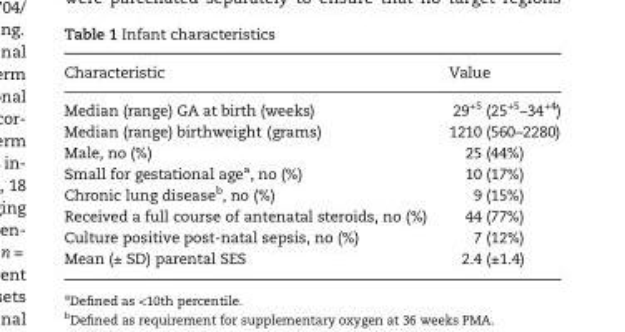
<table><thead><tr><td>Characteristic</td><td>Value</td></tr></thead><tbody><tr><td>Median (range) GA at birth (weeks)</td><td>29<sup>+5</sup> (25<sup>+5</sup>–34<sup>+4</sup>)</td></tr><tr><td>Median (range) birthweight (grams)</td><td>1210 (560–2280)</td></tr><tr><td>Male, no (%)</td><td>25 (44%)</td></tr><tr><td>Small for gestational age<sup>a</sup>, no (%)</td><td>10 (17%)</td></tr><tr><td>Chronic lung disease<sup>b</sup>, no (%)</td><td>9 (15%)</td></tr><tr><td>Received a full course of antenatal steroids, no (%)</td><td>44 (77%)</td></tr><tr><td>Culture positive post-natal sepsis, no (%)</td><td>7 (12%)</td></tr><tr><td>Mean (± SD) parental SES</td><td>2.4 (±1.4)</td></tr></tbody></table>